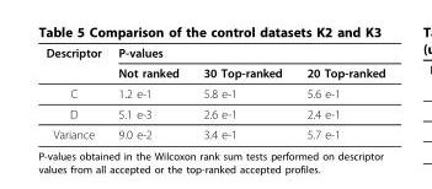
<table><thead><tr><td rowspan="2">Descriptor</td><td colspan="3">P-values</td></tr><tr><td>Not ranked</td><td>30 Top-ranked</td><td>20 Top-ranked</td></tr></thead><tbody><tr><td>C</td><td>1.2 e-1</td><td>5.8 e-1</td><td>5.6 e-1</td></tr><tr><td>D</td><td>5.1 e-3</td><td>2.6 e-1</td><td>2.4 e-1</td></tr><tr><td>Variance</td><td>9.0 e-2</td><td>3.4 e-1</td><td>5.7 e-1</td></tr></tbody></table>